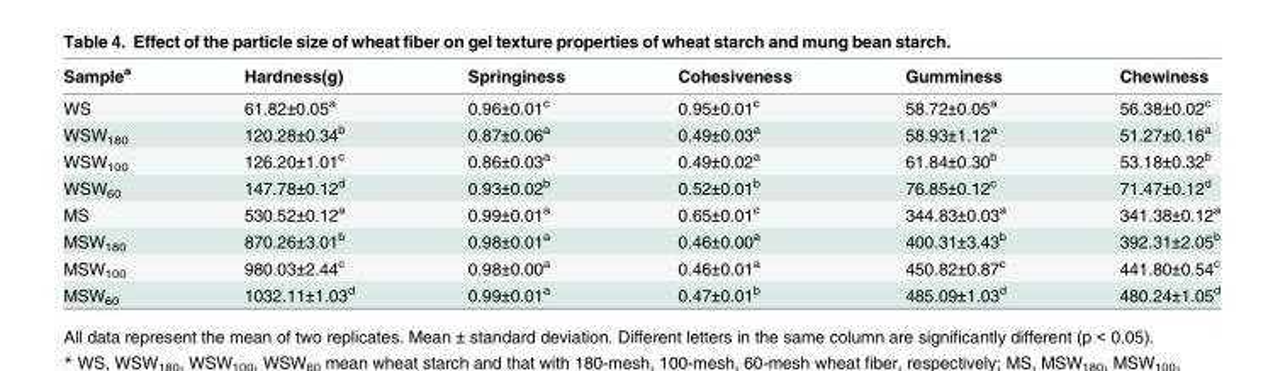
<table><thead><tr><td>Sample<sup>a</sup></td><td>Hardness(g)</td><td>Springiness</td><td>Cohesiveness</td><td>Gumminess</td><td>Chewiness</td></tr></thead><tbody><tr><td>WS</td><td>61.82±0.05<sup>a</sup></td><td>0.96±0.01<sup>c</sup></td><td>0.95±0.01<sup>c</sup></td><td>58.72±0.05<sup>a</sup></td><td>56.38±0.02<sup>c</sup></td></tr><tr><td>WSW<sub>180</sub></td><td>120.28±0.34<sup>b</sup></td><td>0.87±0.06<sup>a</sup></td><td>0.49±0.03<sup>a</sup></td><td>58.93±1.12<sup>a</sup></td><td>51.27±0.16<sup>a</sup></td></tr><tr><td>WSW<sub>100</sub></td><td>126.20±1.01<sup>c</sup></td><td>0.86±0.03<sup>a</sup></td><td>0.49±0.02<sup>a</sup></td><td>61.84±0.30<sup>b</sup></td><td>53.18±0.32<sup>b</sup></td></tr><tr><td>WSW<sub>60</sub></td><td>147.78±0.12<sup>d</sup></td><td>0.93±0.02<sup>b</sup></td><td>0.52±0.01<sup>b</sup></td><td>76.85±0.12<sup>c</sup></td><td>71.47±0.12<sup>d</sup></td></tr><tr><td>MS</td><td>530.52±0.12<sup>a</sup></td><td>0.99±0.01<sup>a</sup></td><td>0.65±0.01<sup>c</sup></td><td>344.83±0.03<sup>a</sup></td><td>341.38±0.12<sup>a</sup></td></tr><tr><td>MSW<sub>180</sub></td><td>870.26±3.01<sup>b</sup></td><td>0.98±0.01<sup>a</sup></td><td>0.46±0.00<sup>a</sup></td><td>400.31±3.43<sup>b</sup></td><td>392.31±2.05<sup>b</sup></td></tr><tr><td>MSW<sub>100</sub></td><td>980.03±2.44<sup>c</sup></td><td>0.98±0.00<sup>a</sup></td><td>0.46±0.01<sup>a</sup></td><td>450.82±0.87<sup>c</sup></td><td>441.80±0.54<sup>c</sup></td></tr><tr><td>MSW<sub>60</sub></td><td>1032.11±1.03<sup>d</sup></td><td>0.99±0.01<sup>a</sup></td><td>0.47±0.01<sup>b</sup></td><td>485.09±1.03<sup>d</sup></td><td>480.24±1.05<sup>d</sup></td></tr></tbody></table>